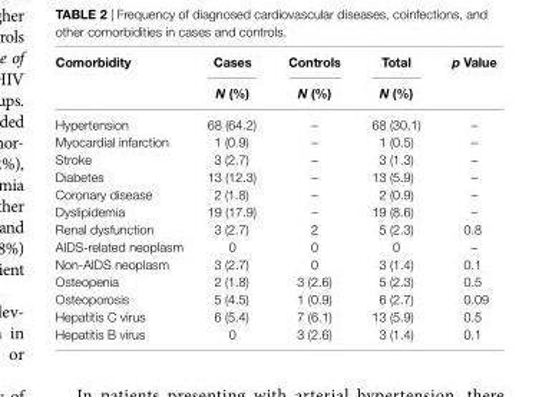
<table><thead><tr><td rowspan="2">comorbidity</td><td rowspan="2">cases N (%)</td><td rowspan="2">controls N (%)</td><td rowspan="2">Total N (%)</td><td rowspan="2">p Value</td></tr><tr></tr></thead><tbody><tr><td>Hypertension</td><td>68 (64.2)</td><td>–</td><td>68 (30.1)</td><td>–</td></tr><tr><td>Myocardial infarction</td><td>1 (0.9)</td><td>–</td><td>1 (0.5)</td><td>–</td></tr><tr><td>Stroke</td><td>3 (2.7)</td><td>–</td><td>3 (1.3)</td><td>–</td></tr><tr><td>Diabetes</td><td>13 (12.3)</td><td>–</td><td>13 (5.9)</td><td>–</td></tr><tr><td>Coronary disease</td><td>2 (1.8)</td><td>–</td><td>2 (0.9)</td><td>–</td></tr><tr><td>Dyslipidemia</td><td>19 (17.9)</td><td>–</td><td>19 (8.6)</td><td>–</td></tr><tr><td>Renal dysfunction</td><td>3 (2.7)</td><td>2</td><td>5 (2.3)</td><td>0.8</td></tr><tr><td>AIDS-related neoplasm</td><td>0</td><td>0</td><td>0</td><td>–</td></tr><tr><td>Non-AIDS neoplasm</td><td>3 (2.7)</td><td>0</td><td>3 (1.4)</td><td>0.1</td></tr><tr><td>Osteopenia</td><td>2 (1.8)</td><td>3 (2.6)</td><td>5 (2.3)</td><td>0.5</td></tr><tr><td>Osteoporosis</td><td>5 (4.5)</td><td>1 (0.9)</td><td>6 (2.7)</td><td>0.09</td></tr><tr><td>Hepatitis C virus</td><td>6 (5.4)</td><td>7 (6.1)</td><td>13 (5.9)</td><td>0.5</td></tr><tr><td>Hepatitis B virus</td><td>0</td><td>3 (2.6)</td><td>3 (1.4)</td><td>0.1</td></tr></tbody></table>